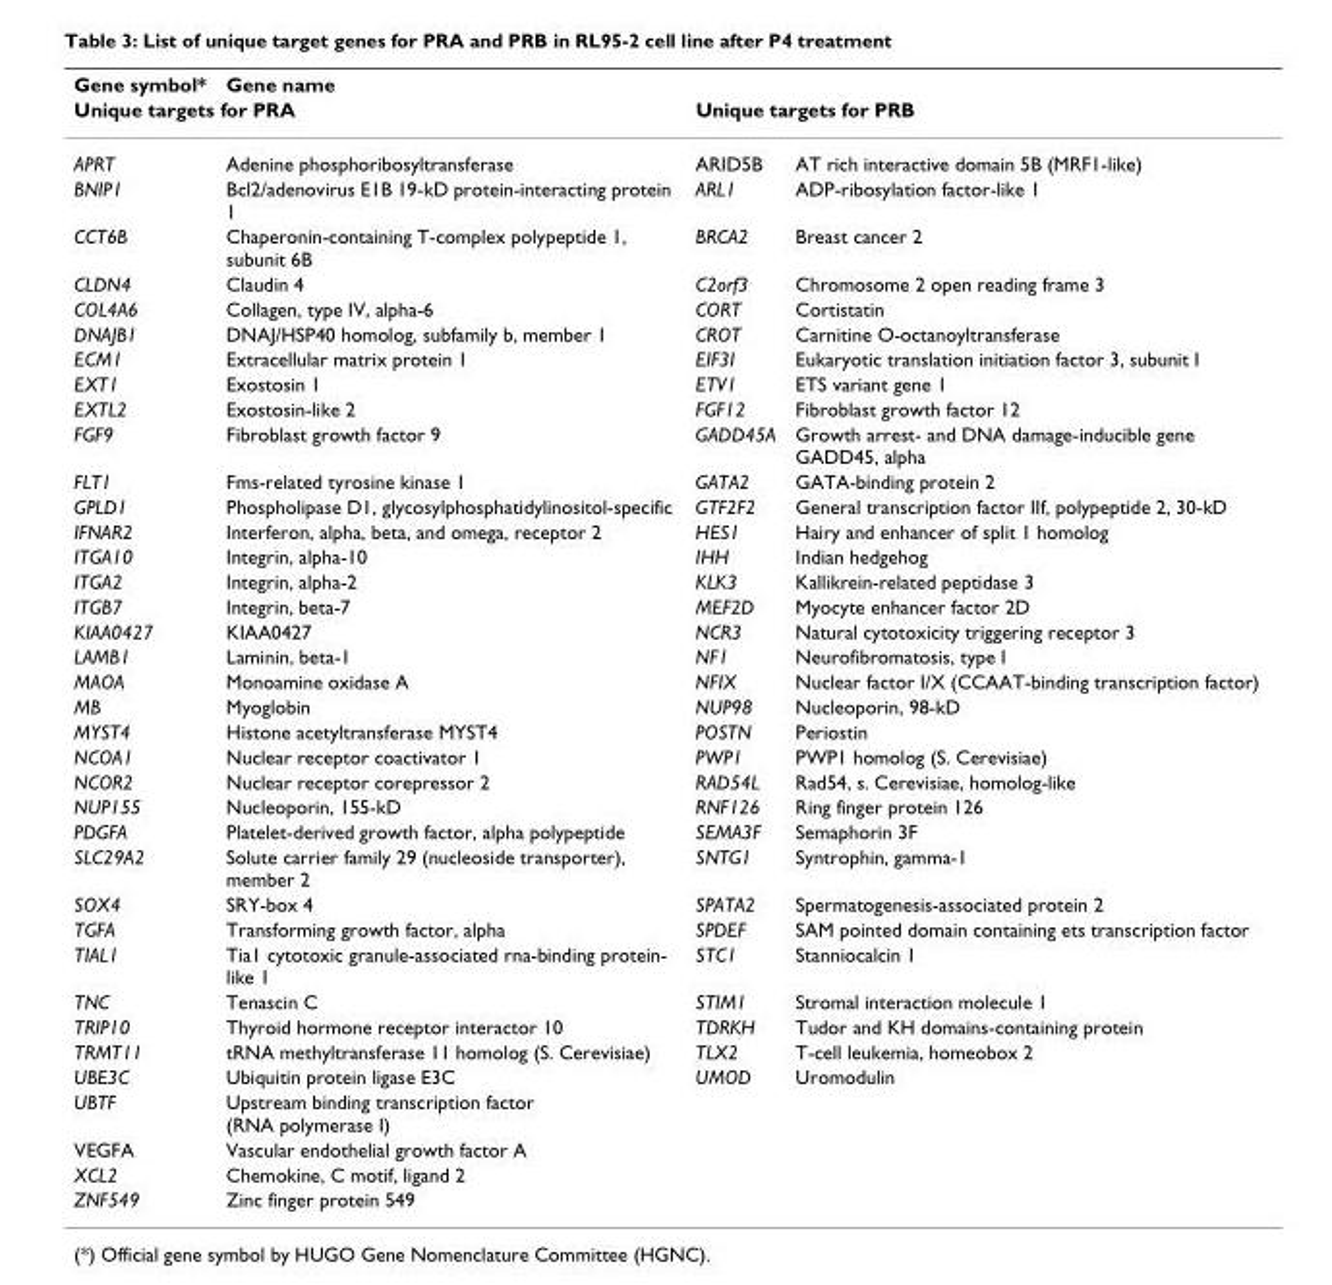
<table><thead><tr><td>Gene symbol*</td><td>Gene name</td><td></td><td></td></tr><tr><td colspan="2">Unique targets for PRA</td><td colspan="2">Unique targets for PRB</td></tr></thead><tbody><tr><td>APRT</td><td>Adenine phosphoribosyltransferase</td><td>ARID5B</td><td>AT rich interactive domain 5B (MRF1-like)</td></tr><tr><td>BNIP1</td><td>Bcl2/adenovirus E1B 19-kD protein-interacting protein 1</td><td>ARL1</td><td>ADP-ribosylation factor-like 1</td></tr><tr><td>CCT6B</td><td>Chaperonin-containing T-complex polypeptide 1, subunit 6B</td><td>BRCA2</td><td>Breast cancer 2</td></tr><tr><td>CLDN4</td><td>Claudin 4</td><td>C2orf3</td><td>Chromosome 2 open reading frame 3</td></tr><tr><td>COL4A6</td><td>Collagen, type IV, alpha-6</td><td>CORT</td><td>Cortistatin</td></tr><tr><td>DNAJB1</td><td>DNAJ/HSP40 homolog, subfamily b, member 1</td><td>CROT</td><td>Carnitine O-octanoyltransferase</td></tr><tr><td>ECM1</td><td>Extracellular matrix protein 1</td><td>EIF3I</td><td>Eukaryotic translation initiation factor 3, subunit I</td></tr><tr><td>EXT1</td><td>Exostosin 1</td><td>ETV1</td><td>ETS variant gene 1</td></tr><tr><td>EXTL2</td><td>Exostosin-like 2</td><td>FGF12</td><td>Fibroblast growth factor 12</td></tr><tr><td>FGF9</td><td>Fibroblast growth factor 9</td><td>GADD45A</td><td>Growth arrest- and DNA damage-inducible gene GADD45, alpha</td></tr><tr><td>FLT1</td><td>Fms-related tyrosine kinase 1</td><td>GATA2</td><td>GATA-binding protein 2</td></tr><tr><td>GPLD1</td><td>Phospholipase D1, glycosylphosphatidylinositol-specific</td><td>GTF2F2</td><td>General transcription factor IIf, polypeptide 2, 30-kD</td></tr><tr><td>IFNAR2</td><td>Interferon, alpha, beta, and omega, receptor 2</td><td>HES1</td><td>Hairy and enhancer of split 1 homolog</td></tr><tr><td>ITGA10</td><td>Integrin, alpha-10</td><td>IHH</td><td>Indian hedgehog</td></tr><tr><td>ITGA2</td><td>Integrin, alpha-2</td><td>KLK3</td><td>Kallikrein-related peptidase 3</td></tr><tr><td>ITGB7</td><td>Integrin, beta-7</td><td>MEF2D</td><td>Myocyte enhancer factor 2D</td></tr><tr><td>KIAA0427</td><td>KIAA0427</td><td>NCR3</td><td>Natural cytotoxicity triggering receptor 3</td></tr><tr><td>LAMB1</td><td>Laminin, beta-1</td><td>NF1</td><td>Neurofibromatosis, type I</td></tr><tr><td>MAOA</td><td>Monoamine oxidase A</td><td>NFIX</td><td>Nuclear factor I/X (CCAAT-binding transcription factor)</td></tr><tr><td>MB</td><td>Myoglobin</td><td>NUP98</td><td>Nucleoporin, 98-kD</td></tr><tr><td>MYST4</td><td>Histone acetyltransferase MYST4</td><td>POSTN</td><td>Periostin</td></tr><tr><td>NCOA1</td><td>Nuclear receptor coactivator 1</td><td>PWP1</td><td>PWP1 homolog (S. Cerevisiae)</td></tr><tr><td>NCOR2</td><td>Nuclear receptor corepressor 2</td><td>RAD54L</td><td>Rad54, s. Cerevisiae, homolog-like</td></tr><tr><td>NUP155</td><td>Nucleoporin, 155-kD</td><td>RNF126</td><td>Ring finger protein 126</td></tr><tr><td>PDGFA</td><td>Platelet-derived growth factor, alpha polypeptide</td><td>SEMA3F</td><td>Semaphorin 3F</td></tr><tr><td>SLC29A2</td><td>Solute carrier family 29 (nucleoside transporter), member 2</td><td>SNTG1</td><td>Syntrophin, gamma-1</td></tr><tr><td>SOX4</td><td>SRY-box 4</td><td>SPATA2</td><td>Spermatogenesis-associated protein 2</td></tr><tr><td>TGFA</td><td>Transforming growth factor, alpha</td><td>SPDEF</td><td>SAM pointed domain containing ets transcription factor</td></tr><tr><td>TIAL1</td><td>Tia1 cytotoxic granule-associated rna-binding protein- like 1</td><td>STC1</td><td>Stanniocalcin 1</td></tr><tr><td>TNC</td><td>Tenascin C</td><td>STIM1</td><td>Stromal interaction molecule 1</td></tr><tr><td>TRIP10</td><td>Thyroid hormone receptor interactor 10</td><td>TDRKH</td><td>Tudor and KH domains-containing protein</td></tr><tr><td>TRMT11</td><td>tRNA methyltransferase 11 homolog (S. Cerevisiae)</td><td>TLX2</td><td>T-cell leukemia, homeobox 2</td></tr><tr><td>UBE3C</td><td>Ubiquitin protein ligase E3C</td><td>UMOD</td><td>Uromodulin</td></tr><tr><td>UBTF</td><td>Upstream binding transcription factor (RNA polymerase I)</td><td></td><td></td></tr><tr><td>VEGFA</td><td>Vascular endothelial growth factor A</td><td></td><td></td></tr><tr><td>XCL2</td><td>Chemokine, C motif, ligand 2</td><td></td><td></td></tr><tr><td>ZNF549</td><td>Zinc finger protein 549</td><td></td><td></td></tr></tbody></table>